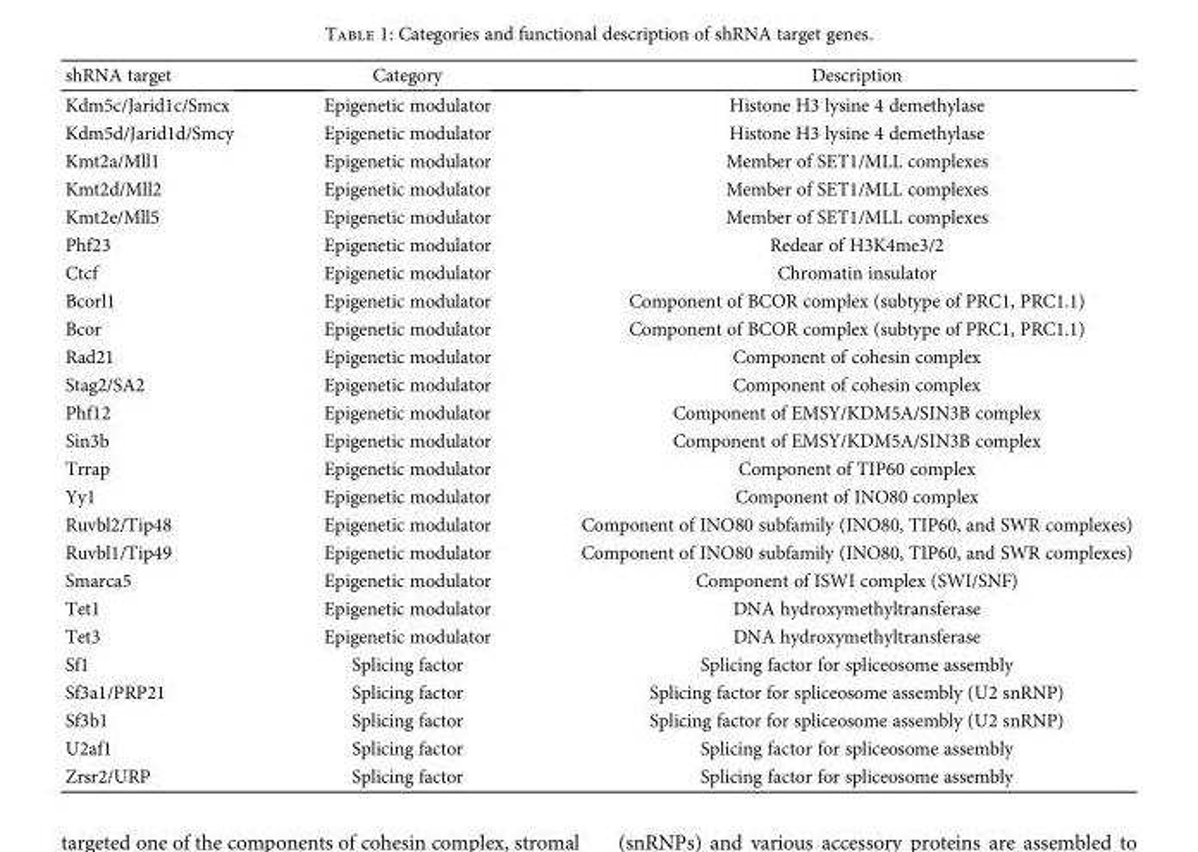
<table><thead><tr><td>shRNA target</td><td>Category</td><td>Description</td></tr></thead><tbody><tr><td>Kdm5c/Jarid1c/Smcx</td><td>Epigenetic modulator</td><td>Histone H3 lysine 4 demethylase</td></tr><tr><td>Kdm5d/Jarid1d/Smcy</td><td>Epigenetic modulator</td><td>Histone H3 lysine 4 demethylase</td></tr><tr><td>Kmt2a/Mll1</td><td>Epigenetic modulator</td><td>Member of SET1/MLL complexes</td></tr><tr><td>Kmt2d/Mll2</td><td>Epigenetic modulator</td><td>Member of SET1/MLL complexes</td></tr><tr><td>Kmt2e/Mll5</td><td>Epigenetic modulator</td><td>Member of SET1/MLL complexes</td></tr><tr><td>Phf23</td><td>Epigenetic modulator</td><td>Redear of H3K4me3/2</td></tr><tr><td>Ctcf</td><td>Epigenetic modulator</td><td>Chromatin insulator</td></tr><tr><td>Bcorl1</td><td>Epigenetic modulator</td><td>Component of BCOR complex (subtype of PRC1, PRC1.1)</td></tr><tr><td>Bcor</td><td>Epigenetic modulator</td><td>Component of BCOR complex (subtype of PRC1, PRC1.1)</td></tr><tr><td>Rad21</td><td>Epigenetic modulator</td><td>Component of cohesin complex</td></tr><tr><td>Stag2/SA2</td><td>Epigenetic modulator</td><td>Component of cohesin complex</td></tr><tr><td>Phf12</td><td>Epigenetic modulator</td><td>Component of EMSY/KDM5A/SIN3B complex</td></tr><tr><td>Sin3b</td><td>Epigenetic modulator</td><td>Component of EMSY/KDM5A/SIN3B complex</td></tr><tr><td>Trrap</td><td>Epigenetic modulator</td><td>Component of TIP60 complex</td></tr><tr><td>Yy1</td><td>Epigenetic modulator</td><td>Component of INO80 complex</td></tr><tr><td>Ruvbl2/Tip48</td><td>Epigenetic modulator</td><td>Component of INO80 subfamily (INO80, TIP60, and SWR complexes)</td></tr><tr><td>Ruvbl1/Tip49</td><td>Epigenetic modulator</td><td>Component of INO80 subfamily (INO80, TIP60, and SWR complexes)</td></tr><tr><td>Smarca5</td><td>Epigenetic modulator</td><td>Component of ISWI complex (SWI/SNF)</td></tr><tr><td>Tet1</td><td>Epigenetic modulator</td><td>DNA hydroxymethyltransferase</td></tr><tr><td>Tet3</td><td>Epigenetic modulator</td><td>DNA hydroxymethyltransferase</td></tr><tr><td>Sf1</td><td>Splicing factor</td><td>Splicing factor for spliceosome assembly</td></tr><tr><td>Sf3a1/PRP21</td><td>Splicing factor</td><td>Splicing factor for spliceosome assembly (U2 snRNP)</td></tr><tr><td>Sf3b1</td><td>Splicing factor</td><td>Splicing factor for spliceosome assembly (U2 snRNP)</td></tr><tr><td>U2af1</td><td>Splicing factor</td><td>Splicing factor for spliceosome assembly</td></tr><tr><td>Zrsr2/URP</td><td>Splicing factor</td><td>Splicing factor for spliceosome assembly</td></tr></tbody></table>